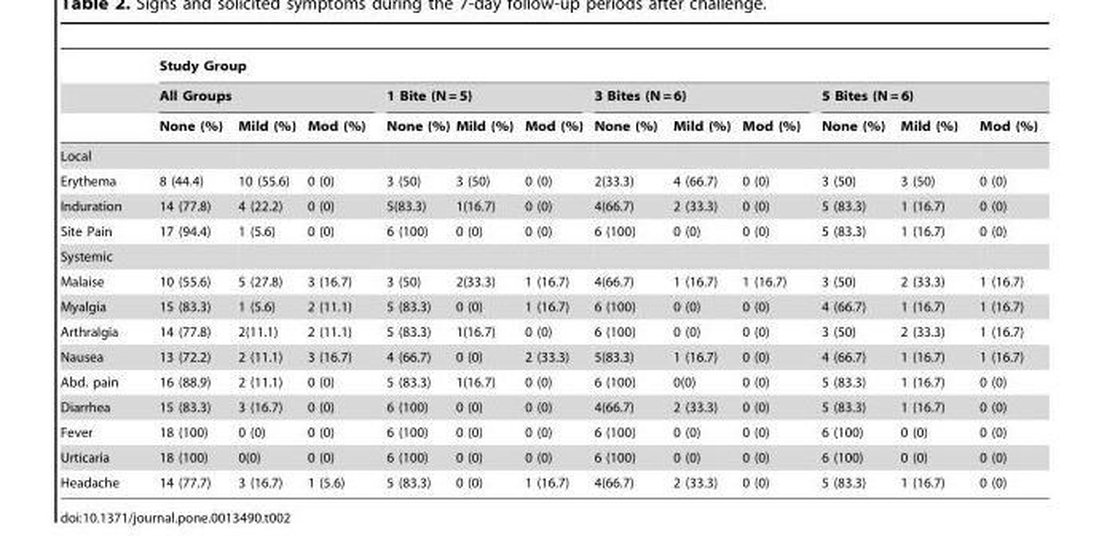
<table><thead><tr><td rowspan="3"></td><td colspan="12">Study Group</td></tr><tr><td colspan="3">All Groups</td><td colspan="3">1 Bite (N = 5)</td><td colspan="3">3 Bites (N = 6)</td><td colspan="3">5 Bites (N = 6)</td></tr><tr><td>None (%)</td><td>Mild (%)</td><td>Mod (%)</td><td>None (%)</td><td>Mild (%)</td><td>Mod (%)</td><td>None (%)</td><td>Mild (%)</td><td>Mod (%)</td><td>None (%)</td><td>Mild (%)</td><td>Mod (%)</td></tr></thead><tbody><tr><td colspan="13">Local</td></tr><tr><td>Erythema</td><td>8 (44.4)</td><td>10 (55.6)</td><td>0 (0)</td><td>3 (50)</td><td>3 (50)</td><td>0 (0)</td><td>2(33.3)</td><td>4 (66.7)</td><td>0 (0)</td><td>3 (50)</td><td>3 (50)</td><td>0 (0)</td></tr><tr><td>Induration</td><td>14 (77.8)</td><td>4 (22.2)</td><td>0 (0)</td><td>5(83.3)</td><td>1(16.7)</td><td>0 (0)</td><td>4(66.7)</td><td>2 (33.3)</td><td>0 (0)</td><td>5 (83.3)</td><td>1 (16.7)</td><td>0 (0)</td></tr><tr><td>Site Pain</td><td>17 (94.4)</td><td>1 (5.6)</td><td>0 (0)</td><td>6 (100)</td><td>0 (0)</td><td>0 (0)</td><td>6 (100)</td><td>0 (0)</td><td>0 (0)</td><td>5 (83.3)</td><td>1 (16.7)</td><td>0 (0)</td></tr><tr><td colspan="13">Systemic</td></tr><tr><td>Malaise</td><td>10 (55.6)</td><td>5 (27.8)</td><td>3 (16.7)</td><td>3 (50)</td><td>2(33.3)</td><td>1 (16.7)</td><td>4(66.7)</td><td>1 (16.7)</td><td>1 (16.7)</td><td>3 (50)</td><td>2 (33.3)</td><td>1 (16.7)</td></tr><tr><td>Myalgia</td><td>15 (83.3)</td><td>1 (5.6)</td><td>2 (11.1)</td><td>5 (83.3)</td><td>0 (0)</td><td>1 (16.7)</td><td>6 (100)</td><td>0 (0)</td><td>0 (0)</td><td>4 (66.7)</td><td>1 (16.7)</td><td>1 (16.7)</td></tr><tr><td>Arthralgia</td><td>14 (77.8)</td><td>2(11.1)</td><td>2 (11.1)</td><td>5 (83.3)</td><td>1(16.7)</td><td>0 (0)</td><td>6 (100)</td><td>0 (0)</td><td>0 (0)</td><td>3 (50)</td><td>2 (33.3)</td><td>1 (16.7)</td></tr><tr><td>Nausea</td><td>13 (72.2)</td><td>2 (11.1)</td><td>3 (16.7)</td><td>4 (66.7)</td><td>0 (0)</td><td>2 (33.3)</td><td>5(83.3)</td><td>1 (16.7)</td><td>0 (0)</td><td>4 (66.7)</td><td>1 (16.7)</td><td>1 (16.7)</td></tr><tr><td>Abd. pain</td><td>16 (88.9)</td><td>2 (11.1)</td><td>0 (0)</td><td>5 (83.3)</td><td>1(16.7)</td><td>0 (0)</td><td>6 (100)</td><td>0(0)</td><td>0 (0)</td><td>5 (83.3)</td><td>1 (16.7)</td><td>0 (0)</td></tr><tr><td>Diarrhea</td><td>15 (83.3)</td><td>3 (16.7)</td><td>0 (0)</td><td>6 (100)</td><td>0 (0)</td><td>0 (0)</td><td>4(66.7)</td><td>2 (33.3)</td><td>0 (0)</td><td>5 (83.3)</td><td>1 (16.7)</td><td>0 (0)</td></tr><tr><td>Fever</td><td>18 (100)</td><td>0 (0)</td><td>0 (0)</td><td>6 (100)</td><td>0 (0)</td><td>0 (0)</td><td>6 (100)</td><td>0 (0)</td><td>0 (0)</td><td>6 (100)</td><td>0 (0)</td><td>0 (0)</td></tr><tr><td>Urticaria</td><td>18 (100)</td><td>0(0)</td><td>0 (0)</td><td>6 (100)</td><td>0 (0)</td><td>0 (0)</td><td>6 (100)</td><td>0 (0)</td><td>0 (0)</td><td>6 (100)</td><td>0 (0)</td><td>0 (0)</td></tr><tr><td>Headache</td><td>14 (77.7)</td><td>3 (16.7)</td><td>1 (5.6)</td><td>5 (83.3)</td><td>0 (0)</td><td>1 (16.7)</td><td>4(66.7)</td><td>2 (33.3)</td><td>0 (0)</td><td>5 (83.3)</td><td>1 (16.7)</td><td>0 (0)</td></tr></tbody></table>